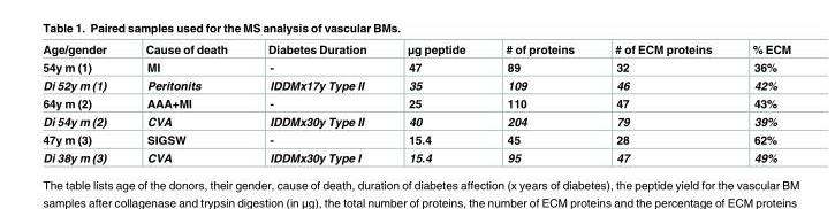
<table><thead><tr><td>Age/gender</td><td>Cause of death</td><td>Diabetes Duration</td><td>μg peptide</td><td># of proteins</td><td># of ECM proteins</td><td>% ECM</td></tr></thead><tbody><tr><td>54y m (1)</td><td>MI</td><td>-</td><td>47</td><td>89</td><td>32</td><td>36%</td></tr><tr><td>Di 52y m (1)</td><td>Peritonits</td><td>IDDMx17y Type II</td><td>35</td><td>109</td><td>46</td><td>42%</td></tr><tr><td>64y m (2)</td><td>AAA+MI</td><td>-</td><td>25</td><td>110</td><td>47</td><td>43%</td></tr><tr><td>Di 54y m (2)</td><td>CVA</td><td>IDDMx30y Type II</td><td>40</td><td>204</td><td>79</td><td>39%</td></tr><tr><td>47y m (3)</td><td>SIGSW</td><td>-</td><td>15.4</td><td>45</td><td>28</td><td>62%</td></tr><tr><td>Di 38y m (3)</td><td>CVA</td><td>IDDMx30y Type I</td><td>15.4</td><td>95</td><td>47</td><td>49%</td></tr></tbody></table>